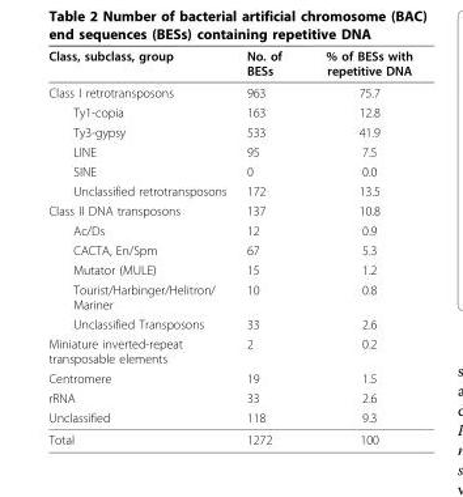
<table><thead><tr><td>Class, subclass, group</td><td>No. of BESs</td><td>% of BESs with repetitive DNA</td></tr></thead><tbody><tr><td>Class I retrotransposons</td><td>963</td><td>75.7</td></tr><tr><td>Ty1-copia</td><td>163</td><td>12.8</td></tr><tr><td>Ty3-gypsy</td><td>533</td><td>41.9</td></tr><tr><td>LINE</td><td>95</td><td>7.5</td></tr><tr><td>SINE</td><td>0</td><td>0.0</td></tr><tr><td>Unclassified retrotransposons</td><td>172</td><td>13.5</td></tr><tr><td>Class II DNA transposons</td><td>137</td><td>10.8</td></tr><tr><td>Ac/Ds</td><td>12</td><td>0.9</td></tr><tr><td>CACTA, En/Spm</td><td>67</td><td>5.3</td></tr><tr><td>Mutator (MULE)</td><td>15</td><td>1.2</td></tr><tr><td>Tourist/Harbinger/Helitron/ Mariner</td><td>10</td><td>0.8</td></tr><tr><td>Unclassified Transposons</td><td>33</td><td>2.6</td></tr><tr><td>Miniature inverted-repeat transposable elements</td><td>2</td><td>0.2</td></tr><tr><td>Centromere</td><td>19</td><td>1.5</td></tr><tr><td>rRNA</td><td>33</td><td>2.6</td></tr><tr><td>Unclassified</td><td>118</td><td>9.3</td></tr><tr><td>Total</td><td>1272</td><td>100</td></tr></tbody></table>